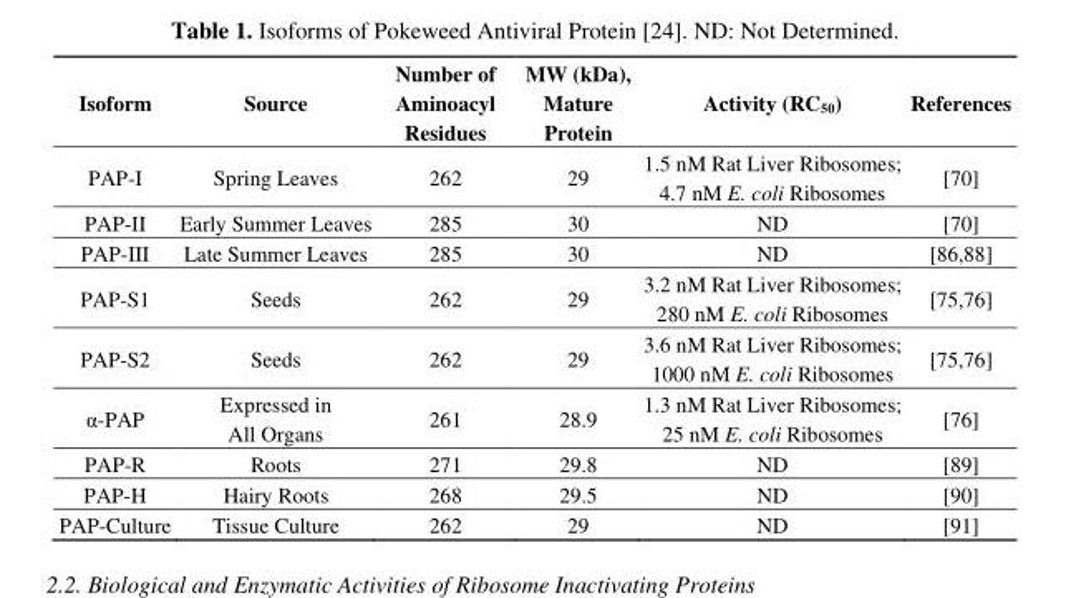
<table><thead><tr><td>Isoform</td><td>Source</td><td>Number of Aminoacyl Residues</td><td>MW (kDa), Mature Protein</td><td>Activity (RC<sub>50</sub>)</td><td>References</td></tr></thead><tbody><tr><td>PAP-I</td><td>Spring Leaves</td><td>262</td><td>29</td><td>1.5 nM Rat Liver Ribosomes; 4.7 nM E. coli Ribosomes</td><td>[70]</td></tr><tr><td>PAP-II</td><td>Early Summer Leaves</td><td>285</td><td>30</td><td>ND</td><td>[70]</td></tr><tr><td>PAP-III</td><td>Late Summer Leaves</td><td>285</td><td>30</td><td>ND</td><td>[86,88]</td></tr><tr><td>PAP-S1</td><td>Seeds</td><td>262</td><td>29</td><td>3.2 nM Rat Liver Ribosomes; 280 nM E. coli Ribosomes</td><td>[75,76]</td></tr><tr><td>PAP-S2</td><td>Seeds</td><td>262</td><td>29</td><td>3.6 nM Rat Liver Ribosomes; 1000 nM E. coli Ribosomes</td><td>[75,76]</td></tr><tr><td>α-PAP</td><td>Expressed in All Organs</td><td>261</td><td>28.9</td><td>1.3 nM Rat Liver Ribosomes; 25 nM E. coli Ribosomes</td><td>[76]</td></tr><tr><td>PAP-R</td><td>Roots</td><td>271</td><td>29.8</td><td>ND</td><td>[89]</td></tr><tr><td>PAP-H</td><td>Hairy Roots</td><td>268</td><td>29.5</td><td>ND</td><td>[90]</td></tr><tr><td>PAP-Culture</td><td>Tissue Culture</td><td>262</td><td>29</td><td>ND</td><td>[91]</td></tr></tbody></table>